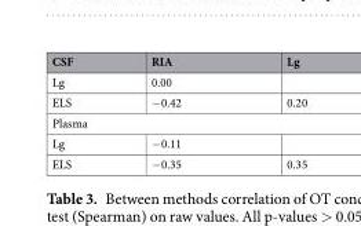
<table><thead><tr><td>CSF</td><td>RIA</td><td>Lg</td></tr></thead><tbody><tr><td>Lg</td><td>0.00</td><td></td></tr><tr><td>ELS</td><td>−0.42</td><td>0.20</td></tr><tr><td colspan="3">Plasma</td></tr><tr><td>Lg</td><td>−0.11</td><td></td></tr><tr><td>ELS</td><td>−0.35</td><td>0.35</td></tr></tbody></table>